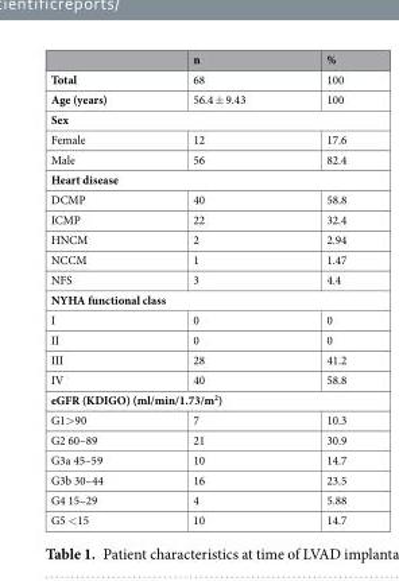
<table><thead><tr><td></td><td>n</td><td>%</td></tr></thead><tbody><tr><td>Total</td><td>68</td><td>100</td></tr><tr><td>Age (years)</td><td>56.4 ± 9.43</td><td>100</td></tr><tr><td colspan="3">Sex</td></tr><tr><td>Female</td><td>12</td><td>17.6</td></tr><tr><td>Male</td><td>56</td><td>82.4</td></tr><tr><td colspan="3">Heart disease</td></tr><tr><td>DCMP</td><td>40</td><td>58.8</td></tr><tr><td>ICMP</td><td>22</td><td>32.4</td></tr><tr><td>HNCM</td><td>2</td><td>2.94</td></tr><tr><td>NCCM</td><td>1</td><td>1.47</td></tr><tr><td>NFS</td><td>3</td><td>4.4</td></tr><tr><td colspan="3">NYHA functional class</td></tr><tr><td>I</td><td>0</td><td>0</td></tr><tr><td>II</td><td>0</td><td>0</td></tr><tr><td>III</td><td>28</td><td>41.2</td></tr><tr><td>IV</td><td>40</td><td>58.8</td></tr><tr><td colspan="3">eGFR (KDIGO) (ml/min/1.73/m<sup>2</sup>)</td></tr><tr><td>G1&gt;90</td><td>7</td><td>10.3</td></tr><tr><td>G2 60–89</td><td>21</td><td>30.9</td></tr><tr><td>G3a 45–59</td><td>10</td><td>14.7</td></tr><tr><td>G3b 30–44</td><td>16</td><td>23.5</td></tr><tr><td>G4 15–29</td><td>4</td><td>5.88</td></tr><tr><td>G5 &lt;15</td><td>10</td><td>14.7</td></tr></tbody></table>